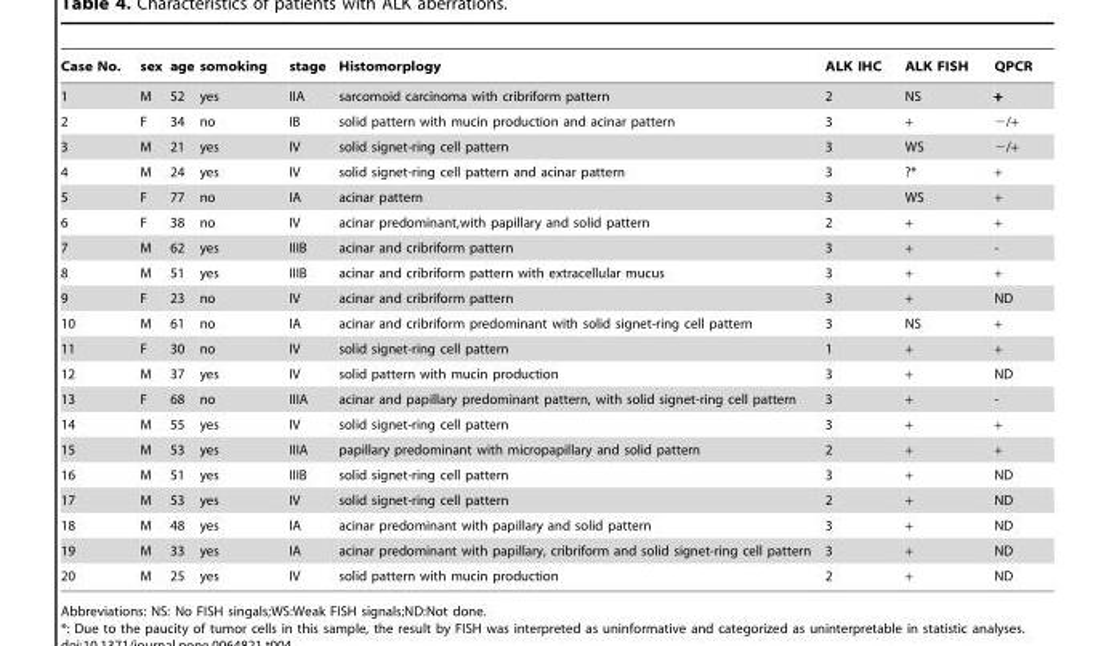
<table><thead><tr><td>Case No.</td><td>sex</td><td>age</td><td>somoking</td><td>stage</td><td>Histomorplogy</td><td>ALK IHC</td><td>ALK FISH</td><td>QPCR</td></tr></thead><tbody><tr><td>1</td><td>M</td><td>52</td><td>yes</td><td>IIA</td><td>sarcomoid carcinoma with cribriform pattern</td><td>2</td><td>NS</td><td>+</td></tr><tr><td>2</td><td>F</td><td>34</td><td>no</td><td>IB</td><td>solid pattern with mucin production and acinar pattern</td><td>3</td><td>+</td><td>−/+</td></tr><tr><td>3</td><td>M</td><td>21</td><td>yes</td><td>IV</td><td>solid signet-ring cell pattern</td><td>3</td><td>WS</td><td>−/+</td></tr><tr><td>4</td><td>M</td><td>24</td><td>yes</td><td>IV</td><td>solid signet-ring cell pattern and acinar pattern</td><td>3</td><td>?*</td><td>+</td></tr><tr><td>5</td><td>F</td><td>77</td><td>no</td><td>IA</td><td>acinar pattern</td><td>3</td><td>WS</td><td>+</td></tr><tr><td>6</td><td>F</td><td>38</td><td>no</td><td>IV</td><td>acinar predominant,with papillary and solid pattern</td><td>2</td><td>+</td><td>+</td></tr><tr><td>7</td><td>M</td><td>62</td><td>yes</td><td>IIIB</td><td>acinar and cribriform pattern</td><td>3</td><td>+</td><td>-</td></tr><tr><td>8</td><td>M</td><td>51</td><td>yes</td><td>IIIB</td><td>acinar and cribriform pattern with extracellular mucus</td><td>3</td><td>+</td><td>+</td></tr><tr><td>9</td><td>F</td><td>23</td><td>no</td><td>IV</td><td>acinar and cribriform pattern</td><td>3</td><td>+</td><td>ND</td></tr><tr><td>10</td><td>M</td><td>61</td><td>no</td><td>IA</td><td>acinar and cribriform predominant with solid signet-ring cell pattern</td><td>3</td><td>NS</td><td>+</td></tr><tr><td>11</td><td>F</td><td>30</td><td>no</td><td>IV</td><td>solid signet-ring cell pattern</td><td>1</td><td>+</td><td>+</td></tr><tr><td>12</td><td>M</td><td>37</td><td>yes</td><td>IV</td><td>solid pattern with mucin production</td><td>3</td><td>+</td><td>ND</td></tr><tr><td>13</td><td>F</td><td>68</td><td>no</td><td>IIIA</td><td>acinar and papillary predominant pattern, with solid signet-ring cell pattern</td><td>3</td><td>+</td><td>-</td></tr><tr><td>14</td><td>M</td><td>55</td><td>yes</td><td>IV</td><td>solid signet-ring cell pattern</td><td>3</td><td>+</td><td>+</td></tr><tr><td>15</td><td>M</td><td>53</td><td>yes</td><td>IIIA</td><td>papillary predominant with micropapillary and solid pattern</td><td>2</td><td>+</td><td>+</td></tr><tr><td>16</td><td>M</td><td>51</td><td>yes</td><td>IIIB</td><td>solid signet-ring cell pattern</td><td>3</td><td>+</td><td>ND</td></tr><tr><td>17</td><td>M</td><td>53</td><td>yes</td><td>IV</td><td>solid signet-ring cell pattern</td><td>2</td><td>+</td><td>ND</td></tr><tr><td>18</td><td>M</td><td>48</td><td>yes</td><td>IA</td><td>acinar predominant with papillary and solid pattern</td><td>3</td><td>+</td><td>ND</td></tr><tr><td>19</td><td>M</td><td>33</td><td>yes</td><td>IA</td><td>acinar predominant with papillary, cribriform and solid signet-ring cell pattern</td><td>3</td><td>+</td><td>ND</td></tr><tr><td>20</td><td>M</td><td>25</td><td>yes</td><td>IV</td><td>solid pattern with mucin production</td><td>2</td><td>+</td><td>ND</td></tr></tbody></table>